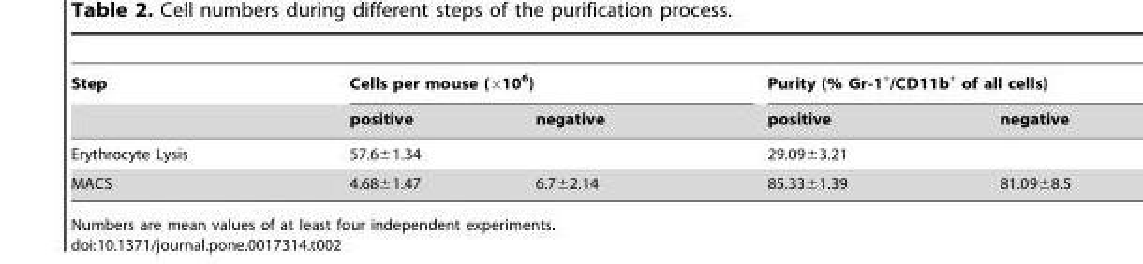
<table><thead><tr><td rowspan="2">Step</td><td colspan="2">Cells per mouse (×10<sup>6</sup>)</td><td colspan="2">Purity (% Gr-1<sup>+</sup>/CD11b<sup>+</sup> of all cells)</td></tr><tr><td>positive</td><td>negative</td><td>positive</td><td>negative</td></tr></thead><tbody><tr><td>Erythrocyte Lysis</td><td colspan="2">57.6±1.34</td><td colspan="2">29.09±3.21</td></tr><tr><td>MACS</td><td>4.68±1.47</td><td>6.7±2.14</td><td>85.33±1.39</td><td>81.09±8.5</td></tr></tbody></table>